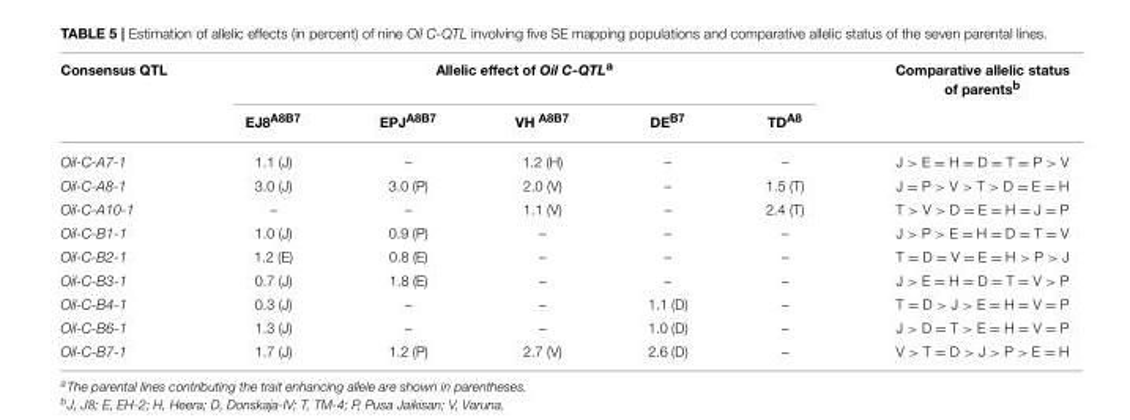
<table><thead><tr><td rowspan="2">Consensus QTL</td><td colspan="5">Allelic effect of Oil C-QTL<sup>a</sup></td><td rowspan="2">Comparative allelic status of parents<sup>b</sup></td></tr><tr><td>EJ8<sup>A8B7</sup></td><td>EPJ<sup>A8B7</sup></td><td>VH <sup>A8B7</sup></td><td>DE<sup>B7</sup></td><td>TD<sup>A8</sup></td></tr></thead><tbody><tr><td>Oil-C-A7-1</td><td>1.1 (J)</td><td>–</td><td>1.2 (H)</td><td>–</td><td>–</td><td>J &gt; E = H = D = T = P &gt; V</td></tr><tr><td>Oil-C-A8-1</td><td>3.0 (J)</td><td>3.0 (P)</td><td>2.0 (V)</td><td>–</td><td>1.5 (T)</td><td>J = P &gt; V &gt; T &gt; D = E = H</td></tr><tr><td>Oil-C-A10-1</td><td>–</td><td>–</td><td>1.1 (V)</td><td>–</td><td>2.4 (T)</td><td>T &gt; V &gt; D = E = H = J = P</td></tr><tr><td>Oil-C-B1-1</td><td>1.0 (J)</td><td>0.9 (P)</td><td>–</td><td>–</td><td>–</td><td>J &gt; P &gt; E = H = D = T = V</td></tr><tr><td>Oil-C-B2-1</td><td>1.2 (E)</td><td>0.8 (E)</td><td>–</td><td>–</td><td>–</td><td>T = D = V = E = H &gt; P &gt; J</td></tr><tr><td>Oil-C-B3-1</td><td>0.7 (J)</td><td>1.8 (E)</td><td>–</td><td>–</td><td>–</td><td>J &gt; E = H = D = T = V &gt; P</td></tr><tr><td>Oil-C-B4-1</td><td>0.3 (J)</td><td>–</td><td>–</td><td>1.1 (D)</td><td>–</td><td>T = D &gt; J &gt; E = H = V = P</td></tr><tr><td>Oil-C-B6-1</td><td>1.3 (J)</td><td>–</td><td>–</td><td>1.0 (D)</td><td>–</td><td>J &gt; D = T &gt; E = H = V = P</td></tr><tr><td>Oil-C-B7-1</td><td>1.7 (J)</td><td>1.2 (P)</td><td>2.7 (V)</td><td>2.6 (D)</td><td>–</td><td>V &gt; T = D &gt; J &gt; P &gt; E = H</td></tr></tbody></table>